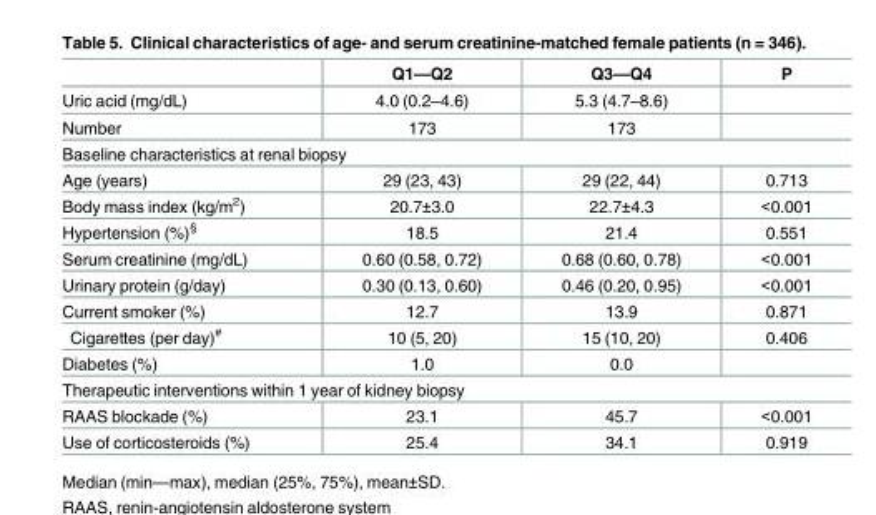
<table><thead><tr><td></td><td>Q1—Q2</td><td>Q3—Q4</td><td>P</td></tr></thead><tbody><tr><td>Uric acid (mg/dL)</td><td>4.0 (0.2–4.6)</td><td>5.3 (4.7–8.6)</td><td></td></tr><tr><td>Number</td><td>173</td><td>173</td><td></td></tr><tr><td colspan="4">Baseline characteristics at renal biopsy</td></tr><tr><td>Age (years)</td><td>29 (23, 43)</td><td>29 (22, 44)</td><td>0.713</td></tr><tr><td>Body mass index (kg/m<sup>2</sup>)</td><td>20.7±3.0</td><td>22.7±4.3</td><td>&lt;0.001</td></tr><tr><td>Hypertension (%)<sup>§</sup></td><td>18.5</td><td>21.4</td><td>0.551</td></tr><tr><td>Serum creatinine (mg/dL)</td><td>0.60 (0.58, 0.72)</td><td>0.68 (0.60, 0.78)</td><td>&lt;0.001</td></tr><tr><td>Urinary protein (g/day)</td><td>0.30 (0.13, 0.60)</td><td>0.46 (0.20, 0.95)</td><td>&lt;0.001</td></tr><tr><td>Current smoker (%)</td><td>12.7</td><td>13.9</td><td>0.871</td></tr><tr><td>Cigarettes (per day)<sup>#</sup></td><td>10 (5, 20)</td><td>15 (10, 20)</td><td>0.406</td></tr><tr><td>Diabetes (%)</td><td>1.0</td><td>0.0</td><td></td></tr><tr><td colspan="4">Therapeutic interventions within 1 year of kidney biopsy</td></tr><tr><td>RAAS blockade (%)</td><td>23.1</td><td>45.7</td><td>&lt;0.001</td></tr><tr><td>Use of corticosteroids (%)</td><td>25.4</td><td>34.1</td><td>0.919</td></tr></tbody></table>